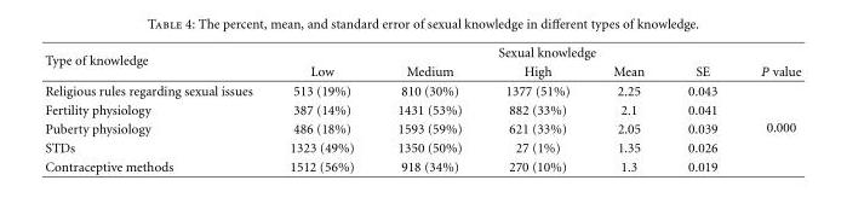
<table><thead><tr><td rowspan="2">Type of knowledge</td><td colspan="6">Sexual knowledge</td></tr><tr><td>Low</td><td>Medium</td><td>High</td><td>Mean</td><td>SE</td><td>P value</td></tr></thead><tbody><tr><td>Religious rules regarding sexual issues</td><td>513 (19%)</td><td>810 (30%)</td><td>1377 (51%)</td><td>2.25</td><td>0.043</td><td rowspan="5">0.000</td></tr><tr><td>Fertility physiology</td><td>387 (14%)</td><td>1431 (53%)</td><td>882 (33%)</td><td>2.1</td><td>0.041</td></tr><tr><td>Puberty physiology</td><td>486 (18%)</td><td>1593 (59%)</td><td>621 (33%)</td><td>2.05</td><td>0.039</td></tr><tr><td>STDs</td><td>1323 (49%)</td><td>1350 (50%)</td><td>27 (1%)</td><td>1.35</td><td>0.026</td></tr><tr><td>Contraceptive methods</td><td>1512 (56%)</td><td>918 (34%)</td><td>270 (10%)</td><td>1.3</td><td>0.019</td></tr></tbody></table>